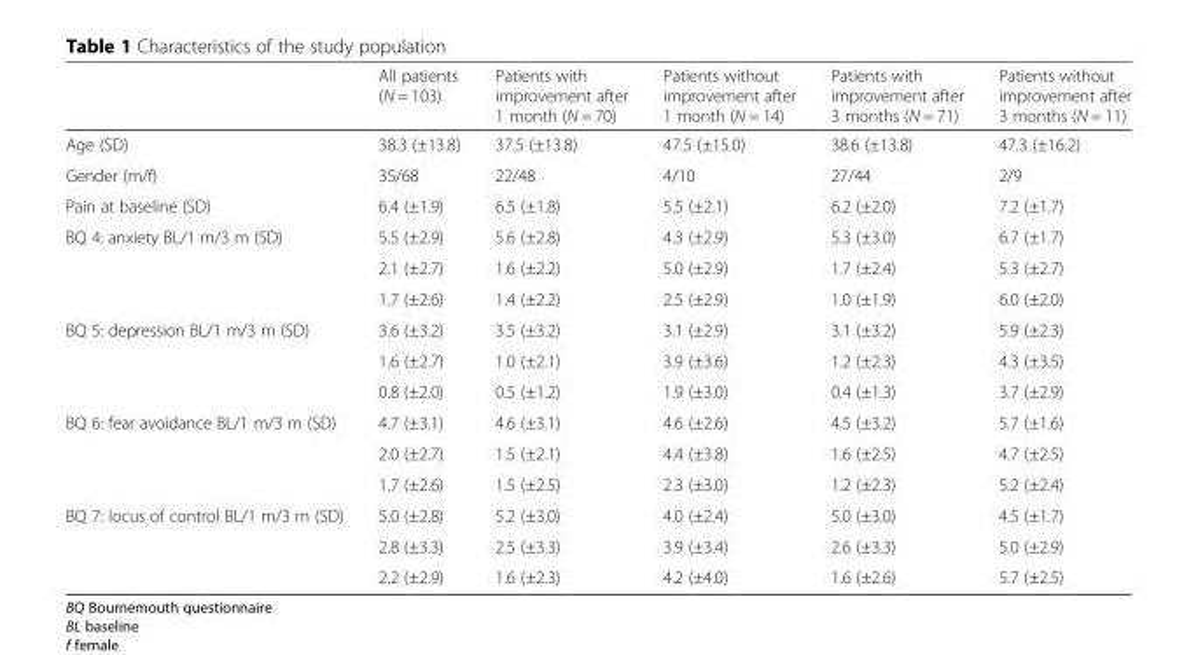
<table><thead><tr><td></td><td>All patients (N = 103)</td><td>Patients with improvement after 1 month (N = 70)</td><td>Patients without improvement after 1 month (N = 14)</td><td>Patients with improvement after 3 months (N = 71)</td><td>Patients without improvement after 3 months (N = 11)</td></tr></thead><tbody><tr><td>Age (SD)</td><td>38.3 (±13.8)</td><td>37.5 (±13.8)</td><td>47.5 (±15.0)</td><td>38.6 (±13.8)</td><td>47.3 (±16.2)</td></tr><tr><td>Gender (m/f)</td><td>35/68</td><td>22/48</td><td>4/10</td><td>27/44</td><td>2/9</td></tr><tr><td>Pain at baseline (SD)</td><td>6.4 (±1.9)</td><td>6.5 (±1.8)</td><td>5.5 (±2.1)</td><td>6.2 (±2.0)</td><td>7.2 (±1.7)</td></tr><tr><td rowspan="3">BQ 4: anxiety BL/1 m/3 m (SD)</td><td>5.5 (±2.9)</td><td>5.6 (±2.8)</td><td>4.3 (±2.9)</td><td>5.3 (±3.0)</td><td>6.7 (±1.7)</td></tr><tr><td>2.1 (±2.7)</td><td>1.6 (±2.2)</td><td>5.0 (±2.9)</td><td>1.7 (±2.4)</td><td>5.3 (±2.7)</td></tr><tr><td>1.7 (±2.6)</td><td>1.4 (±2.2)</td><td>2.5 (±2.9)</td><td>1.0 (±1.9)</td><td>6.0 (±2.0)</td></tr><tr><td rowspan="3">BQ 5: depression BL/1 m/3 m (SD)</td><td>3.6 (±3.2)</td><td>3.5 (±3.2)</td><td>3.1 (±2.9)</td><td>3.1 (±3.2)</td><td>5.9 (±2.3)</td></tr><tr><td>1.6 (±2.7)</td><td>1.0 (±2.1)</td><td>3.9 (±3.6)</td><td>1.2 (±2.3)</td><td>4.3 (±3.5)</td></tr><tr><td>0.8 (±2.0)</td><td>0.5 (±1.2)</td><td>1.9 (±3.0)</td><td>0.4 (±1.3)</td><td>3.7 (±2.9)</td></tr><tr><td rowspan="3">BQ 6: fear avoidance BL/1 m/3 m (SD)</td><td>4.7 (±3.1)</td><td>4.6 (±3.1)</td><td>4.6 (±2.6)</td><td>4.5 (±3.2)</td><td>5.7 (±1.6)</td></tr><tr><td>2.0 (±2.7)</td><td>1.5 (±2.1)</td><td>4.4 (±3.8)</td><td>1.6 (±2.5)</td><td>4.7 (±2.5)</td></tr><tr><td>1.7 (±2.6)</td><td>1.5 (±2.5)</td><td>2.3 (±3.0)</td><td>1.2 (±2.3)</td><td>5.2 (±2.4)</td></tr><tr><td rowspan="3">BQ 7: locus of control BL/1 m/3 m (SD)</td><td>5.0 (±2.8)</td><td>5.2 (±3.0)</td><td>4.0 (±2.4)</td><td>5.0 (±3.0)</td><td>4.5 (±1.7)</td></tr><tr><td>2.8 (±3.3)</td><td>2.5 (±3.3)</td><td>3.9 (±3.4)</td><td>2.6 (±3.3)</td><td>5.0 (±2.9)</td></tr><tr><td>2.2 (±2.9)</td><td>1.6 (±2.3)</td><td>4.2 (±4.0)</td><td>1.6 (±2.6)</td><td>5.7 (±2.5)</td></tr></tbody></table>